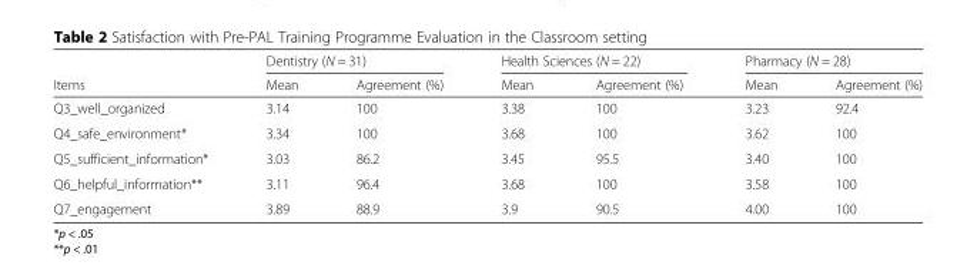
<table><thead><tr><td rowspan="2">Items</td><td colspan="2">Dentistry (N = 31)</td><td colspan="2">Health Sciences (N = 22)</td><td colspan="2">Pharmacy (N = 28)</td></tr><tr><td>Mean</td><td>Agreement (%)</td><td>Mean</td><td>Agreement (%)</td><td>Mean</td><td>Agreement (%)</td></tr></thead><tbody><tr><td>Q3_well_organized</td><td>3.14</td><td>100</td><td>3.38</td><td>100</td><td>3.23</td><td>92.4</td></tr><tr><td>Q4_safe_environment*</td><td>3.34</td><td>100</td><td>3.68</td><td>100</td><td>3.62</td><td>100</td></tr><tr><td>Q5_sufficient_information*</td><td>3.03</td><td>86.2</td><td>3.45</td><td>95.5</td><td>3.40</td><td>100</td></tr><tr><td>Q6_helpful_information**</td><td>3.11</td><td>96.4</td><td>3.68</td><td>100</td><td>3.58</td><td>100</td></tr><tr><td>Q7_engagement</td><td>3.89</td><td>88.9</td><td>3.9</td><td>90.5</td><td>4.00</td><td>100</td></tr></tbody></table>